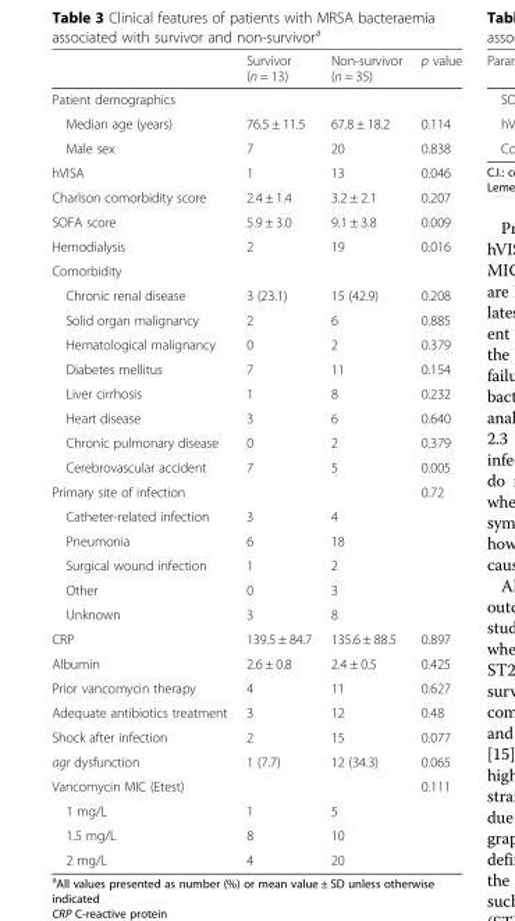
<table><thead><tr><td></td><td>Survivor (n = 13)</td><td>Non-survivor (n = 35)</td><td>p value</td></tr></thead><tbody><tr><td colspan="4">Patient demographics</td></tr><tr><td>Median age (years)</td><td>76.5 ± 11.5</td><td>67.8 ± 18.2</td><td>0.114</td></tr><tr><td>Male sex</td><td>7</td><td>20</td><td>0.838</td></tr><tr><td>hVISA</td><td>1</td><td>13</td><td>0.046</td></tr><tr><td>Charlson comorbidity score</td><td>2.4 ± 1.4</td><td>3.2 ± 2.1</td><td>0.207</td></tr><tr><td>SOFA score</td><td>5.9 ± 3.0</td><td>9.1 ± 3.8</td><td>0.009</td></tr><tr><td>Hemodialysis</td><td>2</td><td>19</td><td>0.016</td></tr><tr><td colspan="4">Comorbidity</td></tr><tr><td>Chronic renal disease</td><td>3 (23.1)</td><td>15 (42.9)</td><td>0.208</td></tr><tr><td>Solid organ malignancy</td><td>2</td><td>6</td><td>0.885</td></tr><tr><td>Hematological malignancy</td><td>0</td><td>2</td><td>0.379</td></tr><tr><td>Diabetes mellitus</td><td>7</td><td>11</td><td>0.154</td></tr><tr><td>Liver cirrhosis</td><td>1</td><td>8</td><td>0.232</td></tr><tr><td>Heart disease</td><td>3</td><td>6</td><td>0.640</td></tr><tr><td>Chronic pulmonary disease</td><td>0</td><td>2</td><td>0.379</td></tr><tr><td>Cerebrovascular accident</td><td>7</td><td>5</td><td>0.005</td></tr><tr><td>Primary site of infection</td><td></td><td></td><td>0.72</td></tr><tr><td>Catheter-related infection</td><td>3</td><td>4</td><td></td></tr><tr><td>Pneumonia</td><td>6</td><td>18</td><td></td></tr><tr><td>Surgical wound infection</td><td>1</td><td>2</td><td></td></tr><tr><td>Other</td><td>0</td><td>3</td><td></td></tr><tr><td>Unknown</td><td>3</td><td>8</td><td></td></tr><tr><td>CRP</td><td>139.5 ± 84.7</td><td>135.6 ± 88.5</td><td>0.897</td></tr><tr><td>Albumin</td><td>2.6 ± 0.8</td><td>2.4 ± 0.5</td><td>0.425</td></tr><tr><td>Prior vancomycin therapy</td><td>4</td><td>11</td><td>0.627</td></tr><tr><td>Adequate antibiotics treatment</td><td>3</td><td>12</td><td>0.48</td></tr><tr><td>Shock after infection</td><td>2</td><td>15</td><td>0.077</td></tr><tr><td>agr dysfunction</td><td>1 (7.7)</td><td>12 (34.3)</td><td>0.065</td></tr><tr><td>Vancomycin MIC (Etest)</td><td></td><td></td><td>0.111</td></tr><tr><td>1 mg/L</td><td>1</td><td>5</td><td></td></tr><tr><td>1.5 mg/L</td><td>8</td><td>10</td><td></td></tr><tr><td>2 mg/L</td><td>4</td><td>20</td><td></td></tr></tbody></table>